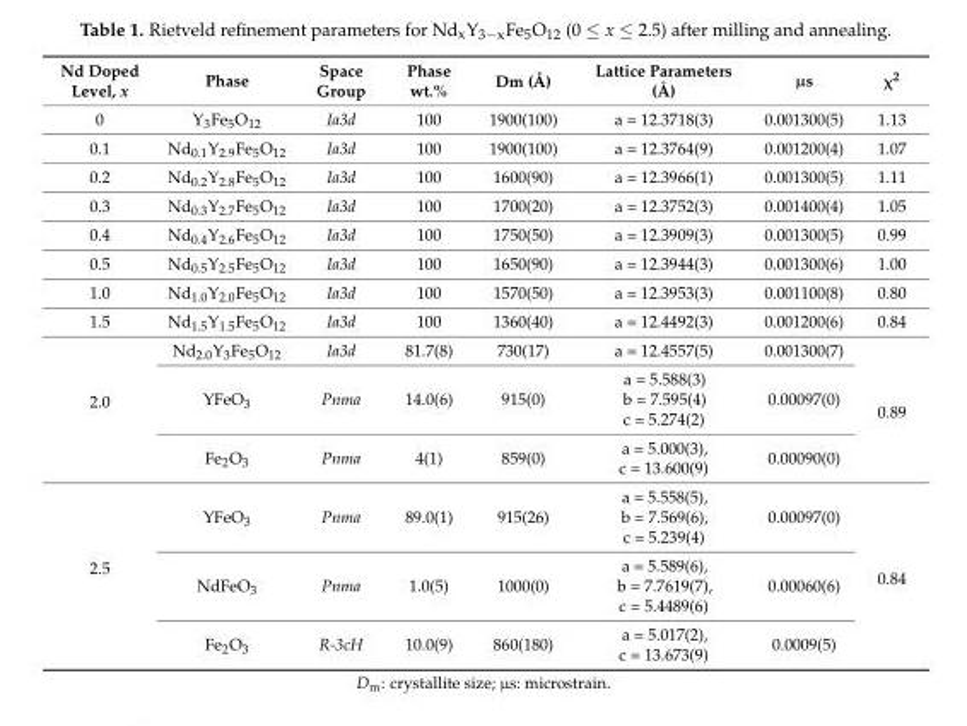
<table><thead><tr><td>Nd Doped Level, x</td><td>Phase</td><td>Space Group</td><td>Phase wt.%</td><td>Dm (Å)</td><td>Lattice Parameters (Å)</td><td>µs</td><td>χ<sup>2</sup></td></tr></thead><tbody><tr><td>0</td><td>Y<sub>3</sub>Fe<sub>5</sub>O<sub>12</sub></td><td>Ia3d</td><td>100</td><td>1900(100)</td><td>a = 12.3718(3)</td><td>0.001300(5)</td><td>1.13</td></tr><tr><td>0.1</td><td>Nd<sub>0.1</sub>Y<sub>2.9</sub>Fe<sub>5</sub>O<sub>12</sub></td><td>Ia3d</td><td>100</td><td>1900(100)</td><td>a = 12.3764(9)</td><td>0.001200(4)</td><td>1.07</td></tr><tr><td>0.2</td><td>Nd<sub>0.2</sub>Y<sub>2.8</sub>Fe<sub>5</sub>O<sub>12</sub></td><td>Ia3d</td><td>100</td><td>1600(90)</td><td>a = 12.3966(1)</td><td>0.001300(5)</td><td>1.11</td></tr><tr><td>0.3</td><td>Nd<sub>0.3</sub>Y<sub>2.7</sub>Fe<sub>5</sub>O<sub>12</sub></td><td>Ia3d</td><td>100</td><td>1700(20)</td><td>a = 12.3752(3)</td><td>0.001400(4)</td><td>1.05</td></tr><tr><td>0.4</td><td>Nd<sub>0.4</sub>Y<sub>2.6</sub>Fe<sub>5</sub>O<sub>12</sub></td><td>Ia3d</td><td>100</td><td>1750(50)</td><td>a = 12.3909(3)</td><td>0.001300(5)</td><td>0.99</td></tr><tr><td>0.5</td><td>Nd<sub>0.5</sub>Y<sub>2.5</sub>Fe<sub>5</sub>O<sub>12</sub></td><td>Ia3d</td><td>100</td><td>1650(90)</td><td>a = 12.3944(3)</td><td>0.001300(6)</td><td>1.00</td></tr><tr><td>1.0</td><td>Nd<sub>1.0</sub>Y<sub>2.0</sub>Fe<sub>5</sub>O<sub>12</sub></td><td>Ia3d</td><td>100</td><td>1570(50)</td><td>a = 12.3953(3)</td><td>0.001100(8)</td><td>0.80</td></tr><tr><td>1.5</td><td>Nd<sub>1.5</sub>Y<sub>1.5</sub>Fe<sub>5</sub>O<sub>12</sub></td><td>Ia3d</td><td>100</td><td>1360(40)</td><td>a = 12.4492(3)</td><td>0.001200(6)</td><td>0.84</td></tr><tr><td rowspan="3">2.0</td><td>Nd<sub>2.0</sub>Y<sub>3</sub>Fe<sub>5</sub>O<sub>12</sub></td><td>Ia3d</td><td>81.7(8)</td><td>730(17)</td><td>a = 12.4557(5)</td><td>0.001300(7)</td><td rowspan="3">0.89</td></tr><tr><td>YFeO<sub>3</sub></td><td>Pnma</td><td>14.0(6)</td><td>915(0)</td><td>a = 5.588(3) b = 7.595(4) c = 5.274(2)</td><td>0.00097(0)</td></tr><tr><td>Fe<sub>2</sub>O<sub>3</sub></td><td>Pnma</td><td>4(1)</td><td>859(0)</td><td>a = 5.000(3), c = 13.600(9)</td><td>0.00090(0)</td></tr><tr><td rowspan="3">2.5</td><td>YFeO<sub>3</sub></td><td>Pnma</td><td>89.0(1)</td><td>915(26)</td><td>a = 5.558(5), b = 7.569(6), c = 5.239(4)</td><td>0.00097(0)</td><td rowspan="3">0.84</td></tr><tr><td>NdFeO<sub>3</sub></td><td>Pnma</td><td>1.0(5)</td><td>1000(0)</td><td>a = 5.589(6), b = 7.7619(7), c = 5.4489(6)</td><td>0.00060(6)</td></tr><tr><td>Fe<sub>2</sub>O<sub>3</sub></td><td>R-3cH</td><td>10.0(9)</td><td>860(180)</td><td>a = 5.017(2), c = 13.673(9)</td><td>0.0009(5)</td></tr></tbody></table>